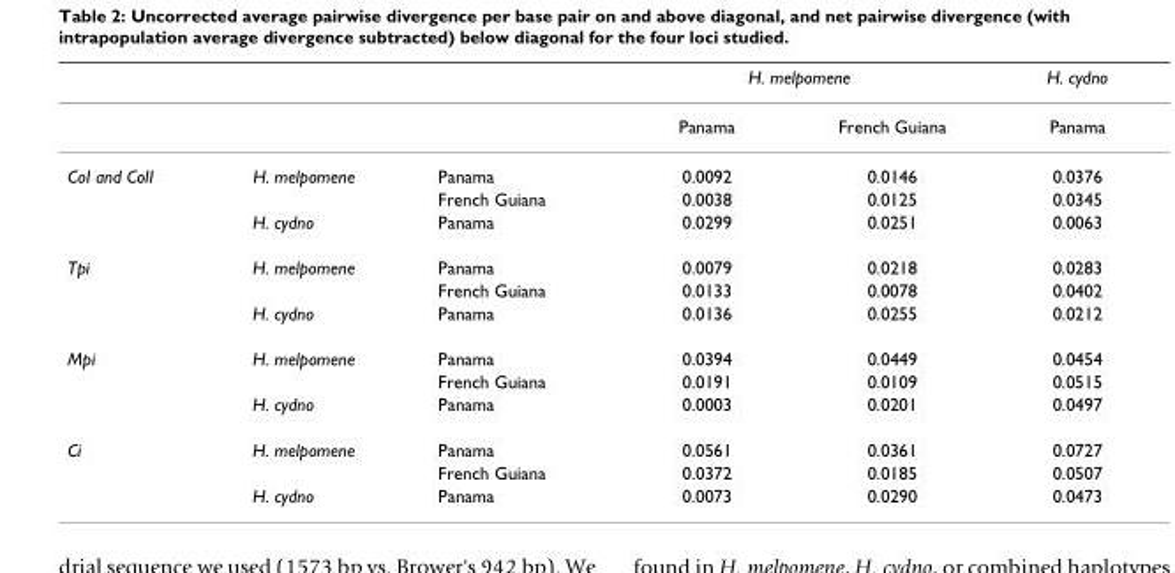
<table><thead><tr><td rowspan="2"></td><td rowspan="2"></td><td rowspan="2"></td><td colspan="2">H. melpomene</td><td rowspan="2">H. cydno Panama</td></tr><tr><td>Panama</td><td>French Guiana</td></tr></thead><tbody><tr><td rowspan="3">CoI and CoII</td><td>H. melpomene</td><td>Panama</td><td>0.0092</td><td>0.0146</td><td>0.0376</td></tr><tr><td></td><td>French Guiana</td><td>0.0038</td><td>0.0125</td><td>0.0345</td></tr><tr><td>H. cydno</td><td>Panama</td><td>0.0299</td><td>0.0251</td><td>0.0063</td></tr><tr><td rowspan="3">Tpi</td><td>H. melpomene</td><td>Panama</td><td>0.0079</td><td>0.0218</td><td>0.0283</td></tr><tr><td></td><td>French Guiana</td><td>0.0133</td><td>0.0078</td><td>0.0402</td></tr><tr><td>H. cydno</td><td>Panama</td><td>0.0136</td><td>0.0255</td><td>0.0212</td></tr><tr><td rowspan="3">Mpi</td><td>H. melpomene</td><td>Panama</td><td>0.0394</td><td>0.0449</td><td>0.0454</td></tr><tr><td></td><td>French Guiana</td><td>0.0191</td><td>0.0109</td><td>0.0515</td></tr><tr><td>H. cydno</td><td>Panama</td><td>0.0003</td><td>0.0201</td><td>0.0497</td></tr><tr><td rowspan="3">Ci</td><td>H. melpomene</td><td>Panama</td><td>0.0561</td><td>0.0361</td><td>0.0727</td></tr><tr><td></td><td>French Guiana</td><td>0.0372</td><td>0.0185</td><td>0.0507</td></tr><tr><td>H. cydno</td><td>Panama</td><td>0.0073</td><td>0.0290</td><td>0.0473</td></tr></tbody></table>